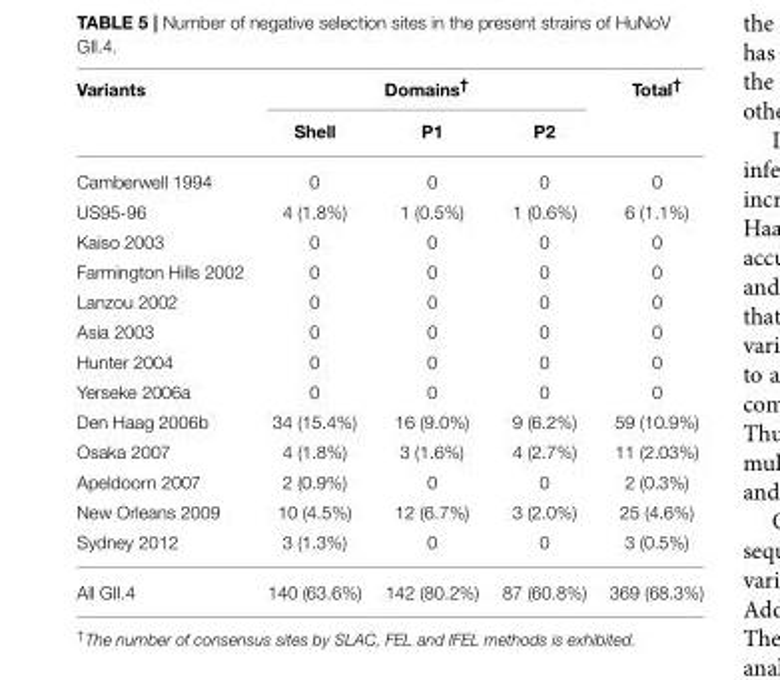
<table><thead><tr><td rowspan="2">Variants</td><td colspan="3">Domains†</td><td rowspan="2">Total†</td></tr><tr><td>Shell</td><td>P1</td><td>P2</td></tr></thead><tbody><tr><td>Camberwell 1994</td><td>0</td><td>0</td><td>0</td><td>0</td></tr><tr><td>US95-96</td><td>4 (1.8%)</td><td>1 (0.5%)</td><td>1 (0.6%)</td><td>6 (1.1%)</td></tr><tr><td>Kaiso 2003</td><td>0</td><td>0</td><td>0</td><td>0</td></tr><tr><td>Farmington Hills 2002</td><td>0</td><td>0</td><td>0</td><td>0</td></tr><tr><td>Lanzou 2002</td><td>0</td><td>0</td><td>0</td><td>0</td></tr><tr><td>Asia 2003</td><td>0</td><td>0</td><td>0</td><td>0</td></tr><tr><td>Hunter 2004</td><td>0</td><td>0</td><td>0</td><td>0</td></tr><tr><td>Yerseke 2006a</td><td>0</td><td>0</td><td>0</td><td>0</td></tr><tr><td>Den Haag 2006b</td><td>34 (15.4%)</td><td>16 (9.0%)</td><td>9 (6.2%)</td><td>59 (10.9%)</td></tr><tr><td>Osaka 2007</td><td>4 (1.8%)</td><td>3 (1.6%)</td><td>4 (2.7%)</td><td>11 (2.03%)</td></tr><tr><td>Apeldoorn 2007</td><td>2 (0.9%)</td><td>0</td><td>0</td><td>2 (0.3%)</td></tr><tr><td>New Orleans 2009</td><td>10 (4.5%)</td><td>12 (6.7%)</td><td>3 (2.0%)</td><td>25 (4.6%)</td></tr><tr><td>Sydney 2012</td><td>3 (1.3%)</td><td>0</td><td>0</td><td>3 (0.5%)</td></tr><tr><td>All GII.4</td><td>140 (63.6%)</td><td>142 (80.2%)</td><td>87 (60.8%)</td><td>369 (68.3%)</td></tr></tbody></table>